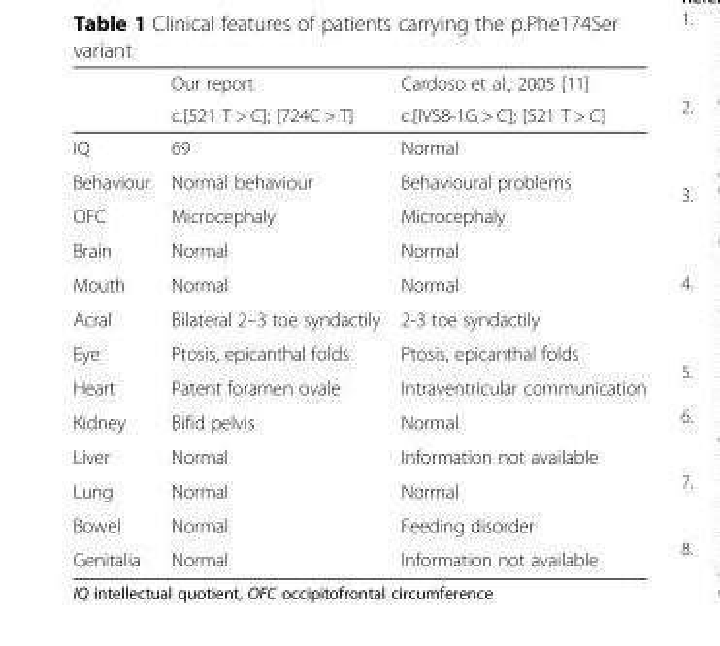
<table><thead><tr><td rowspan="2"></td><td rowspan="2">Our report c.[521 T &gt; C]; [724C &gt; T]</td><td rowspan="2">Cardoso et al., 2005 [11] c.[IVS8-1G &gt; C]; [521 T &gt; C]</td></tr><tr></tr></thead><tbody><tr><td>IQ</td><td>69</td><td>Normal</td></tr><tr><td>Behaviour</td><td>Normal behaviour</td><td>Behavioural problems</td></tr><tr><td>OFC</td><td>Microcephaly</td><td>Microcephaly</td></tr><tr><td>Brain</td><td>Normal</td><td>Normal</td></tr><tr><td>Mouth</td><td>Normal</td><td>Normal</td></tr><tr><td>Acral</td><td>Bilateral 2–3 toe syndactily</td><td>2-3 toe syndactily</td></tr><tr><td>Eye</td><td>Ptosis, epicanthal folds</td><td>Ptosis, epicanthal folds</td></tr><tr><td>Heart</td><td>Patent foramen ovale</td><td>Intraventricular communication</td></tr><tr><td>Kidney</td><td>Bifid pelvis</td><td>Normal</td></tr><tr><td>Liver</td><td>Normal</td><td>Information not available</td></tr><tr><td>Lung</td><td>Normal</td><td>Normal</td></tr><tr><td>Bowel</td><td>Normal</td><td>Feeding disorder</td></tr><tr><td>Genitalia</td><td>Normal</td><td>Information not available</td></tr></tbody></table>